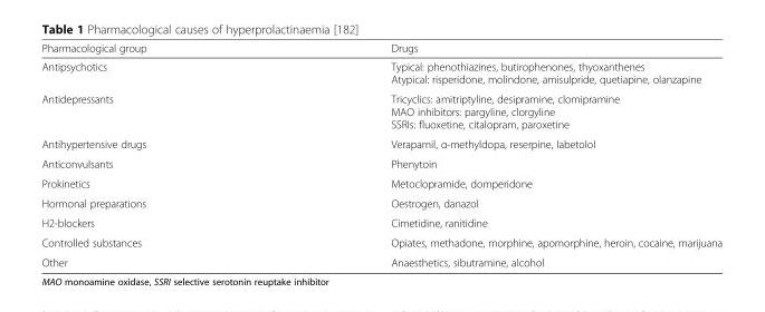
<table><thead><tr><td>Pharmacological group</td><td>Drugs</td></tr></thead><tbody><tr><td>Antipsychotics</td><td>Typical: phenothiazines, butirophenones, thyoxanthenes Atypical: risperidone, molindone, amisulpride, quetiapine, olanzapine</td></tr><tr><td>Antidepressants</td><td>Tricyclics: amitriptyline, desipramine, clomipramine MAO inhibitors: pargyline, clorgyline SSRIs: fluoxetine, citalopram, paroxetine</td></tr><tr><td>Antihypertensive drugs</td><td>Verapamil, α-methyldopa, reserpine, labetolol</td></tr><tr><td>Anticonvulsants</td><td>Phenytoin</td></tr><tr><td>Prokinetics</td><td>Metoclopramide, domperidone</td></tr><tr><td>Hormonal preparations</td><td>Oestrogen, danazol</td></tr><tr><td>H2-blockers</td><td>Cimetidine, ranitidine</td></tr><tr><td>Controlled substances</td><td>Opiates, methadone, morphine, apomorphine, heroin, cocaine, marijuana</td></tr><tr><td>Other</td><td>Anaesthetics, sibutramine, alcohol</td></tr></tbody></table>